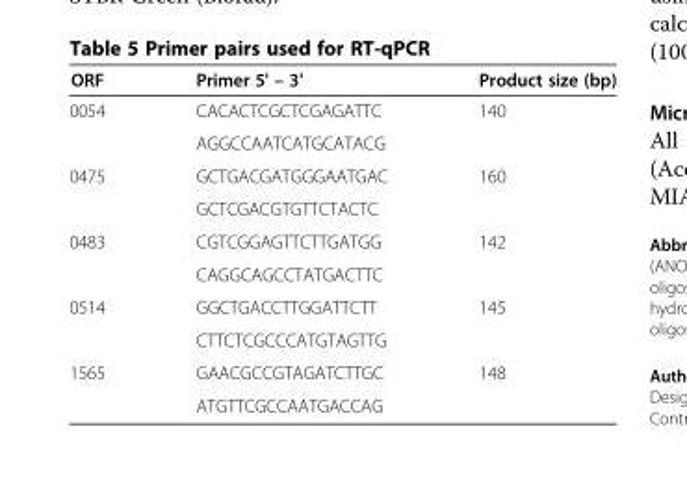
<table><thead><tr><td>ORF</td><td>Primer 5&#x27; – 3&#x27;</td><td>Product size (bp)</td></tr></thead><tbody><tr><td rowspan="2">0054</td><td>CACACTCGCTCGAGATTC</td><td rowspan="2">140</td></tr><tr><td>AGGCCAATCATGCATACG</td></tr><tr><td rowspan="2">0475</td><td>GCTGACGATGGGAATGAC</td><td rowspan="2">160</td></tr><tr><td>GCTCGACGTGTTCTACTC</td></tr><tr><td rowspan="2">0483</td><td>CGTCGGAGTTCTTGATGG</td><td rowspan="2">142</td></tr><tr><td>CAGGCAGCCTATGACTTC</td></tr><tr><td rowspan="2">0514</td><td>GGCTGACCTTGGATTCTT</td><td rowspan="2">145</td></tr><tr><td>CTTCTCGCCCATGTAGTTG</td></tr><tr><td rowspan="2">1565</td><td>GAACGCCGTAGATCTTGC</td><td>148</td></tr><tr><td>ATGTTCGCCAATGACCAG</td><td></td></tr></tbody></table>